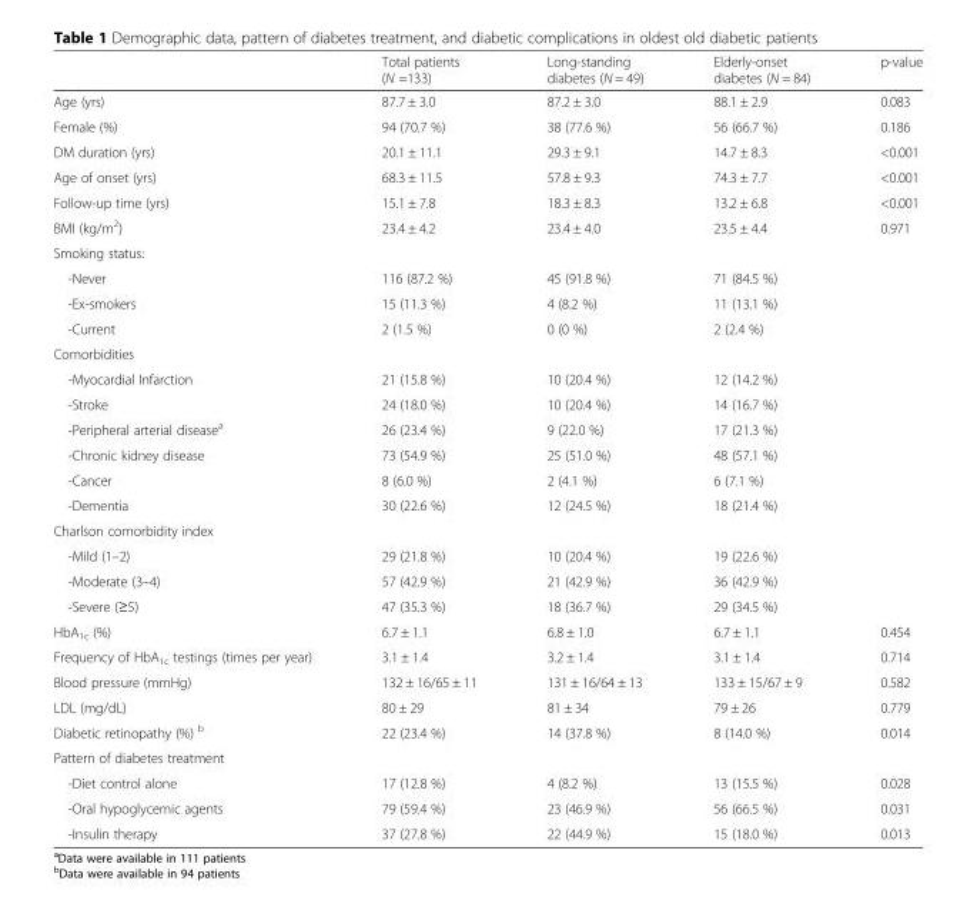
<table><thead><tr><td></td><td>Total patients (N =133)</td><td>Long-standing diabetes (N = 49)</td><td>Elderly-onset diabetes (N = 84)</td><td>p-value</td></tr></thead><tbody><tr><td>Age (yrs)</td><td>87.7 ± 3.0</td><td>87.2 ± 3.0</td><td>88.1 ± 2.9</td><td>0.083</td></tr><tr><td>Female (%)</td><td>94 (70.7 %)</td><td>38 (77.6 %)</td><td>56 (66.7 %)</td><td>0.186</td></tr><tr><td>DM duration (yrs)</td><td>20.1 ± 11.1</td><td>29.3 ± 9.1</td><td>14.7 ± 8.3</td><td>&lt;0.001</td></tr><tr><td>Age of onset (yrs)</td><td>68.3 ± 11.5</td><td>57.8 ± 9.3</td><td>74.3 ± 7.7</td><td>&lt;0.001</td></tr><tr><td>Follow-up time (yrs)</td><td>15.1 ± 7.8</td><td>18.3 ± 8.3</td><td>13.2 ± 6.8</td><td>&lt;0.001</td></tr><tr><td>BMI (kg/m<sup>2</sup>)</td><td>23.4 ± 4.2</td><td>23.4 ± 4.0</td><td>23.5 ± 4.4</td><td>0.971</td></tr><tr><td colspan="5">Smoking status:</td></tr><tr><td>-Never</td><td>116 (87.2 %)</td><td>45 (91.8 %)</td><td>71 (84.5 %)</td><td rowspan="3"></td></tr><tr><td>-Ex-smokers</td><td>15 (11.3 %)</td><td>4 (8.2 %)</td><td>11 (13.1 %)</td></tr><tr><td>-Current</td><td>2 (1.5 %)</td><td>0 (0 %)</td><td>2 (2.4 %)</td></tr><tr><td colspan="5">Comorbidities</td></tr><tr><td>-Myocardial Infarction</td><td>21 (15.8 %)</td><td>10 (20.4 %)</td><td>12 (14.2 %)</td><td rowspan="6"></td></tr><tr><td>-Stroke</td><td>24 (18.0 %)</td><td>10 (20.4 %)</td><td>14 (16.7 %)</td></tr><tr><td>-Peripheral arterial disease<sup>a</sup></td><td>26 (23.4 %)</td><td>9 (22.0 %)</td><td>17 (21.3 %)</td></tr><tr><td>-Chronic kidney disease</td><td>73 (54.9 %)</td><td>25 (51.0 %)</td><td>48 (57.1 %)</td></tr><tr><td>-Cancer</td><td>8 (6.0 %)</td><td>2 (4.1 %)</td><td>6 (7.1 %)</td></tr><tr><td>-Dementia</td><td>30 (22.6 %)</td><td>12 (24.5 %)</td><td>18 (21.4 %)</td></tr><tr><td colspan="5">Charlson comorbidity index</td></tr><tr><td>-Mild (1–2)</td><td>29 (21.8 %)</td><td>10 (20.4 %)</td><td>19 (22.6 %)</td><td rowspan="3"></td></tr><tr><td>-Moderate (3–4)</td><td>57 (42.9 %)</td><td>21 (42.9 %)</td><td>36 (42.9 %)</td></tr><tr><td>-Severe (≥5)</td><td>47 (35.3 %)</td><td>18 (36.7 %)</td><td>29 (34.5 %)</td></tr><tr><td>HbA<sub>1c</sub> (%)</td><td>6.7 ± 1.1</td><td>6.8 ± 1.0</td><td>6.7 ± 1.1</td><td>0.454</td></tr><tr><td>Frequency of HbA<sub>1c</sub> testings (times per year)</td><td>3.1 ± 1.4</td><td>3.2 ± 1.4</td><td>3.1 ± 1.4</td><td>0.714</td></tr><tr><td>Blood pressure (mmHg)</td><td>132 ± 16/65 ± 11</td><td>131 ± 16/64 ± 13</td><td>133 ± 15/67 ± 9</td><td>0.582</td></tr><tr><td>LDL (mg/dL)</td><td>80 ± 29</td><td>81 ± 34</td><td>79 ± 26</td><td>0.779</td></tr><tr><td>Diabetic retinopathy (%) <sup>b</sup></td><td>22 (23.4 %)</td><td>14 (37.8 %)</td><td>8 (14.0 %)</td><td>0.014</td></tr><tr><td colspan="5">Pattern of diabetes treatment</td></tr><tr><td>-Diet control alone</td><td>17 (12.8 %)</td><td>4 (8.2 %)</td><td>13 (15.5 %)</td><td>0.028</td></tr><tr><td>-Oral hypoglycemic agents</td><td>79 (59.4 %)</td><td>23 (46.9 %)</td><td>56 (66.5 %)</td><td>0.031</td></tr><tr><td>-Insulin therapy</td><td>37 (27.8 %)</td><td>22 (44.9 %)</td><td>15 (18.0 %)</td><td>0.013</td></tr></tbody></table>